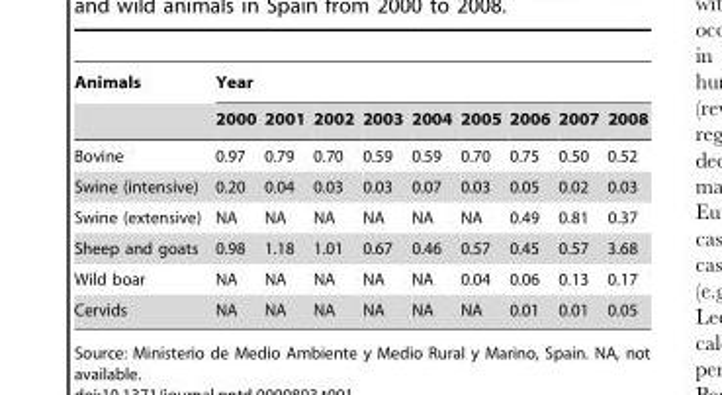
<table><thead><tr><td rowspan="2">Animals</td><td colspan="9">Year</td></tr><tr><td>2000</td><td>2001</td><td>2002</td><td>2003</td><td>2004</td><td>2005</td><td>2006</td><td>2007</td><td>2008</td></tr></thead><tbody><tr><td>Bovine</td><td>0.97</td><td>0.79</td><td>0.70</td><td>0.59</td><td>0.59</td><td>0.70</td><td>0.75</td><td>0.50</td><td>0.52</td></tr><tr><td>Swine (intensive)</td><td>0.20</td><td>0.04</td><td>0.03</td><td>0.03</td><td>0.07</td><td>0.03</td><td>0.05</td><td>0.02</td><td>0.03</td></tr><tr><td>Swine (extensive)</td><td>NA</td><td>NA</td><td>NA</td><td>NA</td><td>NA</td><td>NA</td><td>0.49</td><td>0.81</td><td>0.37</td></tr><tr><td>Sheep and goats</td><td>0.98</td><td>1.18</td><td>1.01</td><td>0.67</td><td>0.46</td><td>0.57</td><td>0.45</td><td>0.57</td><td>3.68</td></tr><tr><td>Wild boar</td><td>NA</td><td>NA</td><td>NA</td><td>NA</td><td>NA</td><td>0.04</td><td>0.06</td><td>0.13</td><td>0.17</td></tr><tr><td>Cervids</td><td>NA</td><td>NA</td><td>NA</td><td>NA</td><td>NA</td><td>NA</td><td>0.01</td><td>0.01</td><td>0.05</td></tr></tbody></table>